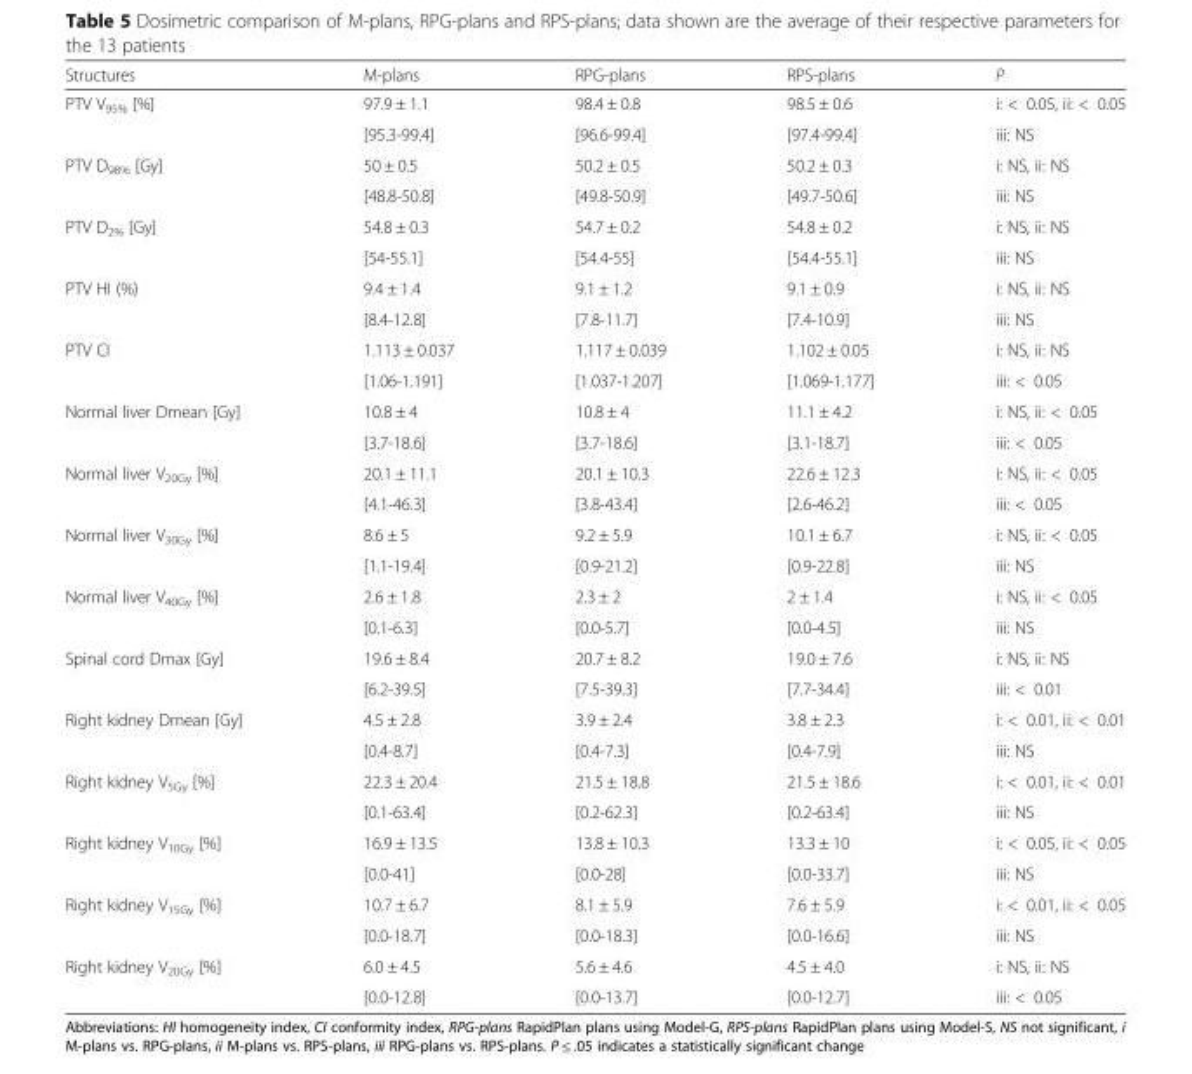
<table><thead><tr><td>Structures</td><td>M-plans</td><td>RPG-plans</td><td>RPS-plans</td><td>P</td></tr></thead><tbody><tr><td rowspan="2">PTV V<sub>95%</sub> [%]</td><td>97.9 ± 1.1</td><td>98.4 ± 0.8</td><td>98.5 ± 0.6</td><td>i: &lt; 0.05, ii: &lt; 0.05</td></tr><tr><td>[95.3-99.4]</td><td>[96.6-99.4]</td><td>[97.4-99.4]</td><td>iii: NS</td></tr><tr><td rowspan="2">PTV D<sub>98%</sub> [Gy]</td><td>50 ± 0.5</td><td>50.2 ± 0.5</td><td>50.2 ± 0.3</td><td>i: NS, ii: NS</td></tr><tr><td>[48.8-50.8]</td><td>[49.8-50.9]</td><td>[49.7-50.6]</td><td>iii: NS</td></tr><tr><td rowspan="2">PTV D<sub>2%</sub> [Gy]</td><td>54.8 ± 0.3</td><td>54.7 ± 0.2</td><td>54.8 ± 0.2</td><td>i: NS, ii: NS</td></tr><tr><td>[54-55.1]</td><td>[54.4-55]</td><td>[54.4-55.1]</td><td>iii: NS</td></tr><tr><td rowspan="2">PTV HI (%)</td><td>9.4 ± 1.4</td><td>9.1 ± 1.2</td><td>9.1 ± 0.9</td><td>i: NS, ii: NS</td></tr><tr><td>[8.4-12.8]</td><td>[7.8-11.7]</td><td>[7.4-10.9]</td><td>iii: NS</td></tr><tr><td rowspan="2">PTV CI</td><td>1.113 ± 0.037</td><td>1.117 ± 0.039</td><td>1.102 ± 0.05</td><td>i: NS, ii: NS</td></tr><tr><td>[1.06-1.191]</td><td>[1.037-1.207]</td><td>[1.069-1.177]</td><td>iii: &lt; 0.05</td></tr><tr><td rowspan="2">Normal liver Dmean [Gy]</td><td>10.8 ± 4</td><td>10.8 ± 4</td><td>11.1 ± 4.2</td><td>i: NS, ii: &lt; 0.05</td></tr><tr><td>[3.7-18.6]</td><td>[3.7-18.6]</td><td>[3.1-18.7]</td><td>iii: &lt; 0.05</td></tr><tr><td rowspan="2">Normal liver V<sub>20Gy</sub> [%]</td><td>20.1 ± 11.1</td><td>20.1 ± 10.3</td><td>22.6 ± 12.3</td><td>i: NS, ii: &lt; 0.05</td></tr><tr><td>[4.1-46.3]</td><td>[3.8-43.4]</td><td>[2.6-46.2]</td><td>iii: &lt; 0.05</td></tr><tr><td rowspan="2">Normal liver V<sub>30Gy</sub> [%]</td><td>8.6 ± 5</td><td>9.2 ± 5.9</td><td>10.1 ± 6.7</td><td>i: NS, ii: &lt; 0.05</td></tr><tr><td>[1.1-19.4]</td><td>[0.9-21.2]</td><td>[0.9-22.8]</td><td>iii: NS</td></tr><tr><td rowspan="2">Normal liver V<sub>40Gy</sub> [%]</td><td>2.6 ± 1.8</td><td>2.3 ± 2</td><td>2 ± 1.4</td><td>i: NS, ii: &lt; 0.05</td></tr><tr><td>[0.1-6.3]</td><td>[0.0-5.7]</td><td>[0.0-4.5]</td><td>iii: NS</td></tr><tr><td rowspan="2">Spinal cord Dmax [Gy]</td><td>19.6 ± 8.4</td><td>20.7 ± 8.2</td><td>19.0 ± 7.6</td><td>i: NS, ii: NS</td></tr><tr><td>[6.2-39.5]</td><td>[7.5-39.3]</td><td>[7.7-34.4]</td><td>iii: &lt; 0.01</td></tr><tr><td rowspan="2">Right kidney Dmean [Gy]</td><td>4.5 ± 2.8</td><td>3.9 ± 2.4</td><td>3.8 ± 2.3</td><td>i: &lt; 0.01, ii: &lt; 0.01</td></tr><tr><td>[0.4-8.7]</td><td>[0.4-7.3]</td><td>[0.4-7.9]</td><td>iii: NS</td></tr><tr><td rowspan="2">Right kidney V<sub>5Gy</sub> [%]</td><td>22.3 ± 20.4</td><td>21.5 ± 18.8</td><td>21.5 ± 18.6</td><td>i: &lt; 0.01, ii: &lt; 0.01</td></tr><tr><td>[0.1-63.4]</td><td>[0.2-62.3]</td><td>[0.2-63.4]</td><td>iii: NS</td></tr><tr><td rowspan="2">Right kidney V<sub>10Gy</sub> [%]</td><td>16.9 ± 13.5</td><td>13.8 ± 10.3</td><td>13.3 ± 10</td><td>i: &lt; 0.05, ii: &lt; 0.05</td></tr><tr><td>[0.0-41]</td><td>[0.0-28]</td><td>[0.0-33.7]</td><td>iii: NS</td></tr><tr><td rowspan="2">Right kidney V<sub>15Gy</sub> [%]</td><td>10.7 ± 6.7</td><td>8.1 ± 5.9</td><td>7.6 ± 5.9</td><td>i: &lt; 0.01, ii: &lt; 0.05</td></tr><tr><td>[0.0-18.7]</td><td>[0.0-18.3]</td><td>[0.0-16.6]</td><td>iii: NS</td></tr><tr><td rowspan="2">Right kidney V<sub>20Gy</sub> [%]</td><td>6.0 ± 4.5</td><td>5.6 ± 4.6</td><td>4.5 ± 4.0</td><td>i: NS, ii: NS</td></tr><tr><td>[0.0-12.8]</td><td>[0.0-13.7]</td><td>[0.0-12.7]</td><td>iii: &lt; 0.05</td></tr></tbody></table>